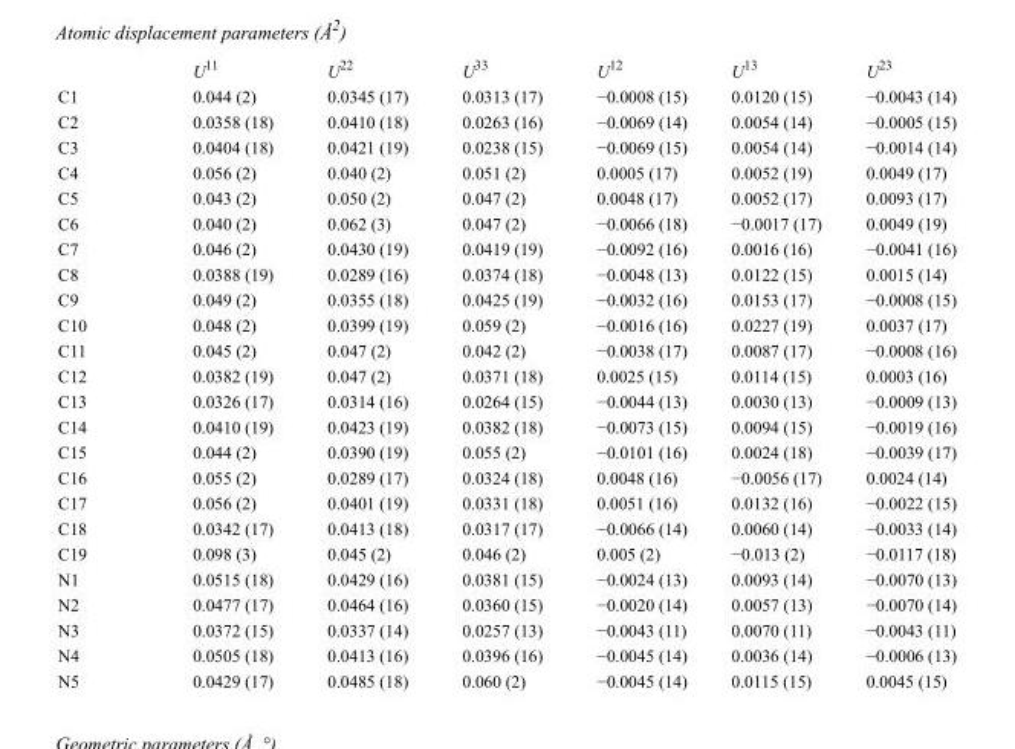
<table><thead><tr><td></td><td>U<sup>11</sup></td><td>U<sup>22</sup></td><td>U<sup>33</sup></td><td>U<sup>12</sup></td><td>U<sup>13</sup></td><td>U<sup>23</sup></td></tr></thead><tbody><tr><td>C1</td><td>0.044 (2)</td><td>0.0345 (17)</td><td>0.0313 (17)</td><td>−0.0008 (15)</td><td>0.0120 (15)</td><td>−0.0043 (14)</td></tr><tr><td>C2</td><td>0.0358 (18)</td><td>0.0410 (18)</td><td>0.0263 (16)</td><td>−0.0069 (14)</td><td>0.0054 (14)</td><td>−0.0005 (15)</td></tr><tr><td>C3</td><td>0.0404 (18)</td><td>0.0421 (19)</td><td>0.0238 (15)</td><td>−0.0069 (15)</td><td>0.0054 (14)</td><td>−0.0014 (14)</td></tr><tr><td>C4</td><td>0.056 (2)</td><td>0.040 (2)</td><td>0.051 (2)</td><td>0.0005 (17)</td><td>0.0052 (19)</td><td>0.0049 (17)</td></tr><tr><td>C5</td><td>0.043 (2)</td><td>0.050 (2)</td><td>0.047 (2)</td><td>0.0048 (17)</td><td>0.0052 (17)</td><td>0.0093 (17)</td></tr><tr><td>C6</td><td>0.040 (2)</td><td>0.062 (3)</td><td>0.047 (2)</td><td>−0.0066 (18)</td><td>−0.0017 (17)</td><td>0.0049 (19)</td></tr><tr><td>C7</td><td>0.046 (2)</td><td>0.0430 (19)</td><td>0.0419 (19)</td><td>−0.0092 (16)</td><td>0.0016 (16)</td><td>−0.0041 (16)</td></tr><tr><td>C8</td><td>0.0388 (19)</td><td>0.0289 (16)</td><td>0.0374 (18)</td><td>−0.0048 (13)</td><td>0.0122 (15)</td><td>0.0015 (14)</td></tr><tr><td>C9</td><td>0.049 (2)</td><td>0.0355 (18)</td><td>0.0425 (19)</td><td>−0.0032 (16)</td><td>0.0153 (17)</td><td>−0.0008 (15)</td></tr><tr><td>C10</td><td>0.048 (2)</td><td>0.0399 (19)</td><td>0.059 (2)</td><td>−0.0016 (16)</td><td>0.0227 (19)</td><td>0.0037 (17)</td></tr><tr><td>C11</td><td>0.045 (2)</td><td>0.047 (2)</td><td>0.042 (2)</td><td>−0.0038 (17)</td><td>0.0087 (17)</td><td>−0.0008 (16)</td></tr><tr><td>C12</td><td>0.0382 (19)</td><td>0.047 (2)</td><td>0.0371 (18)</td><td>0.0025 (15)</td><td>0.0114 (15)</td><td>0.0003 (16)</td></tr><tr><td>C13</td><td>0.0326 (17)</td><td>0.0314 (16)</td><td>0.0264 (15)</td><td>−0.0044 (13)</td><td>0.0030 (13)</td><td>−0.0009 (13)</td></tr><tr><td>C14</td><td>0.0410 (19)</td><td>0.0423 (19)</td><td>0.0382 (18)</td><td>−0.0073 (15)</td><td>0.0094 (15)</td><td>−0.0019 (16)</td></tr><tr><td>C15</td><td>0.044 (2)</td><td>0.0390 (19)</td><td>0.055 (2)</td><td>−0.0101 (16)</td><td>0.0024 (18)</td><td>−0.0039 (17)</td></tr><tr><td>C16</td><td>0.055 (2)</td><td>0.0289 (17)</td><td>0.0324 (18)</td><td>0.0048 (16)</td><td>−0.0056 (17)</td><td>0.0024 (14)</td></tr><tr><td>C17</td><td>0.056 (2)</td><td>0.0401 (19)</td><td>0.0331 (18)</td><td>0.0051 (16)</td><td>0.0132 (16)</td><td>−0.0022 (15)</td></tr><tr><td>C18</td><td>0.0342 (17)</td><td>0.0413 (18)</td><td>0.0317 (17)</td><td>−0.0066 (14)</td><td>0.0060 (14)</td><td>−0.0033 (14)</td></tr><tr><td>C19</td><td>0.098 (3)</td><td>0.045 (2)</td><td>0.046 (2)</td><td>0.005 (2)</td><td>−0.013 (2)</td><td>−0.0117 (18)</td></tr><tr><td>N1</td><td>0.0515 (18)</td><td>0.0429 (16)</td><td>0.0381 (15)</td><td>−0.0024 (13)</td><td>0.0093 (14)</td><td>−0.0070 (13)</td></tr><tr><td>N2</td><td>0.0477 (17)</td><td>0.0464 (16)</td><td>0.0360 (15)</td><td>−0.0020 (14)</td><td>0.0057 (13)</td><td>−0.0070 (14)</td></tr><tr><td>N3</td><td>0.0372 (15)</td><td>0.0337 (14)</td><td>0.0257 (13)</td><td>−0.0043 (11)</td><td>0.0070 (11)</td><td>−0.0043 (11)</td></tr><tr><td>N4</td><td>0.0505 (18)</td><td>0.0413 (16)</td><td>0.0396 (16)</td><td>−0.0045 (14)</td><td>0.0036 (14)</td><td>−0.0006 (13)</td></tr><tr><td>N5</td><td>0.0429 (17)</td><td>0.0485 (18)</td><td>0.060 (2)</td><td>−0.0045 (14)</td><td>0.0115 (15)</td><td>0.0045 (15)</td></tr></tbody></table>